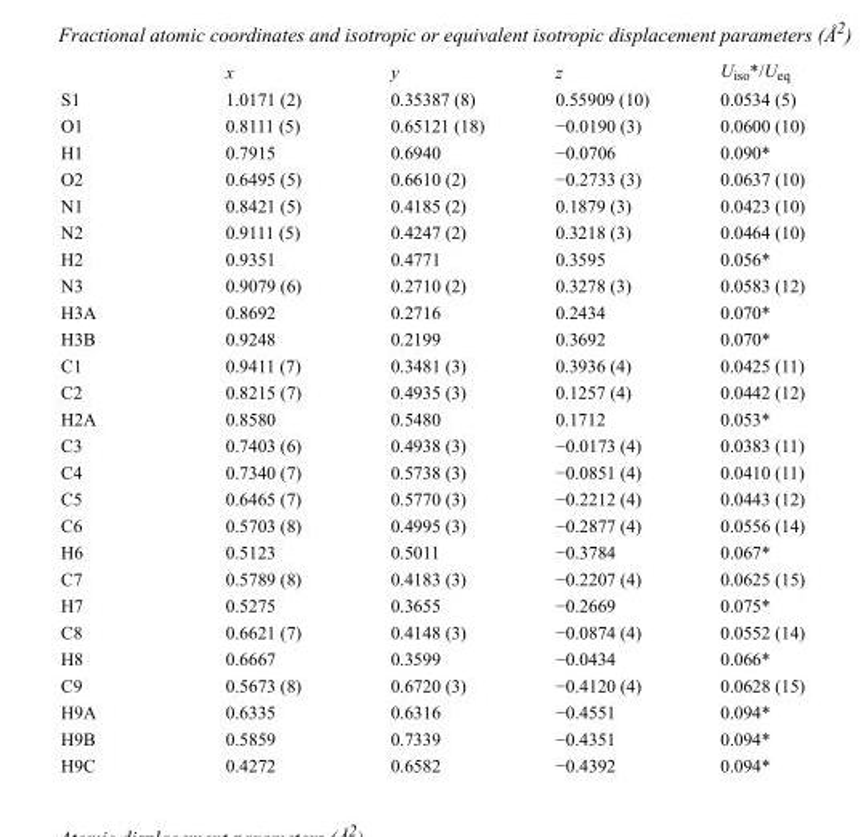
<table><thead><tr><td></td><td>x</td><td>y</td><td>z</td><td>U<sub>iso</sub>*/U<sub>eq</sub></td></tr></thead><tbody><tr><td>S1</td><td>1.0171 (2)</td><td>0.35387 (8)</td><td>0.55909 (10)</td><td>0.0534 (5)</td></tr><tr><td>O1</td><td>0.8111 (5)</td><td>0.65121 (18)</td><td>−0.0190 (3)</td><td>0.0600 (10)</td></tr><tr><td>H1</td><td>0.7915</td><td>0.6940</td><td>−0.0706</td><td>0.090*</td></tr><tr><td>O2</td><td>0.6495 (5)</td><td>0.6610 (2)</td><td>−0.2733 (3)</td><td>0.0637 (10)</td></tr><tr><td>N1</td><td>0.8421 (5)</td><td>0.4185 (2)</td><td>0.1879 (3)</td><td>0.0423 (10)</td></tr><tr><td>N2</td><td>0.9111 (5)</td><td>0.4247 (2)</td><td>0.3218 (3)</td><td>0.0464 (10)</td></tr><tr><td>H2</td><td>0.9351</td><td>0.4771</td><td>0.3595</td><td>0.056*</td></tr><tr><td>N3</td><td>0.9079 (6)</td><td>0.2710 (2)</td><td>0.3278 (3)</td><td>0.0583 (12)</td></tr><tr><td>H3A</td><td>0.8692</td><td>0.2716</td><td>0.2434</td><td>0.070*</td></tr><tr><td>H3B</td><td>0.9248</td><td>0.2199</td><td>0.3692</td><td>0.070*</td></tr><tr><td>C1</td><td>0.9411 (7)</td><td>0.3481 (3)</td><td>0.3936 (4)</td><td>0.0425 (11)</td></tr><tr><td>C2</td><td>0.8215 (7)</td><td>0.4935 (3)</td><td>0.1257 (4)</td><td>0.0442 (12)</td></tr><tr><td>H2A</td><td>0.8580</td><td>0.5480</td><td>0.1712</td><td>0.053*</td></tr><tr><td>C3</td><td>0.7403 (6)</td><td>0.4938 (3)</td><td>−0.0173 (4)</td><td>0.0383 (11)</td></tr><tr><td>C4</td><td>0.7340 (7)</td><td>0.5738 (3)</td><td>−0.0851 (4)</td><td>0.0410 (11)</td></tr><tr><td>C5</td><td>0.6465 (7)</td><td>0.5770 (3)</td><td>−0.2212 (4)</td><td>0.0443 (12)</td></tr><tr><td>C6</td><td>0.5703 (8)</td><td>0.4995 (3)</td><td>−0.2877 (4)</td><td>0.0556 (14)</td></tr><tr><td>H6</td><td>0.5123</td><td>0.5011</td><td>−0.3784</td><td>0.067*</td></tr><tr><td>C7</td><td>0.5789 (8)</td><td>0.4183 (3)</td><td>−0.2207 (4)</td><td>0.0625 (15)</td></tr><tr><td>H7</td><td>0.5275</td><td>0.3655</td><td>−0.2669</td><td>0.075*</td></tr><tr><td>C8</td><td>0.6621 (7)</td><td>0.4148 (3)</td><td>−0.0874 (4)</td><td>0.0552 (14)</td></tr><tr><td>H8</td><td>0.6667</td><td>0.3599</td><td>−0.0434</td><td>0.066*</td></tr><tr><td>C9</td><td>0.5673 (8)</td><td>0.6720 (3)</td><td>−0.4120 (4)</td><td>0.0628 (15)</td></tr><tr><td>H9A</td><td>0.6335</td><td>0.6316</td><td>−0.4551</td><td>0.094*</td></tr><tr><td>H9B</td><td>0.5859</td><td>0.7339</td><td>−0.4351</td><td>0.094*</td></tr><tr><td>H9C</td><td>0.4272</td><td>0.6582</td><td>−0.4392</td><td>0.094*</td></tr></tbody></table>